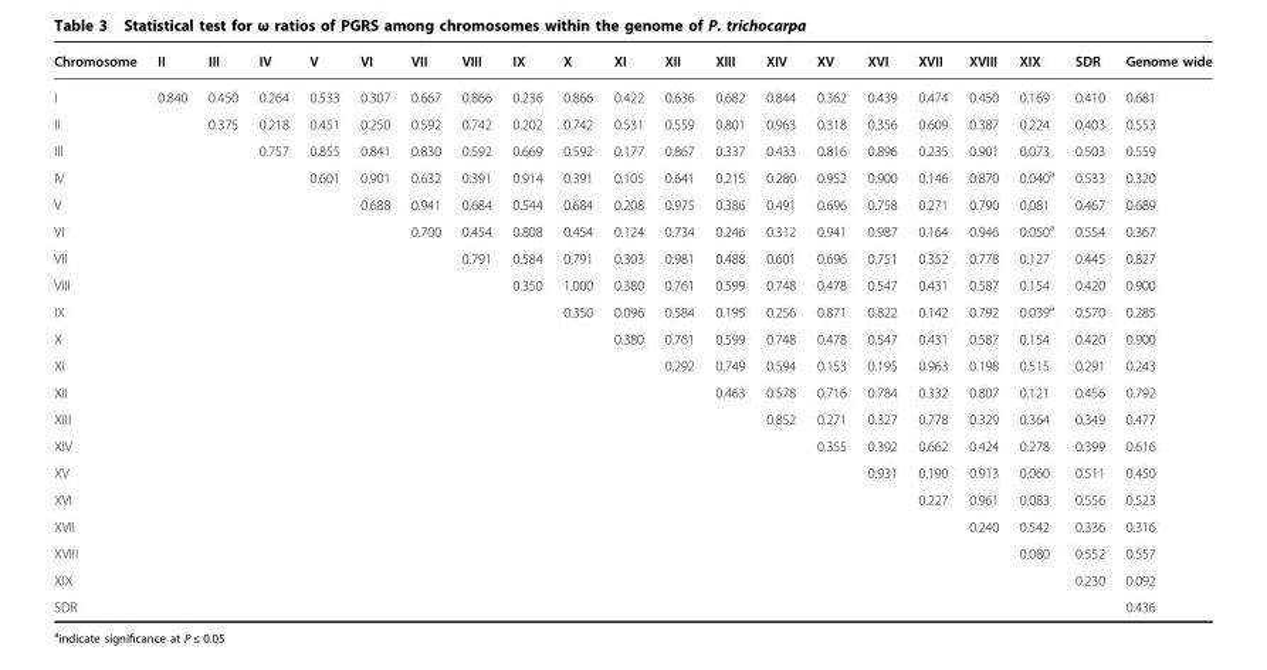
<table><thead><tr><td>Chromosome</td><td>II</td><td>III</td><td>IV</td><td>V</td><td>VI</td><td>VII</td><td>VIII</td><td>IX</td><td>X</td><td>XI</td><td>XII</td><td>XIII</td><td>XIV</td><td>XV</td><td>XVI</td><td>XVII</td><td>XVIII</td><td>XIX</td><td>SDR</td><td>Genome wide</td></tr></thead><tbody><tr><td>I</td><td>0.840</td><td>0.450</td><td>0.264</td><td>0.533</td><td>0.307</td><td>0.667</td><td>0.866</td><td>0.236</td><td>0.866</td><td>0.422</td><td>0.636</td><td>0.682</td><td>0.844</td><td>0.362</td><td>0.439</td><td>0.474</td><td>0.450</td><td>0.169</td><td>0.410</td><td>0.681</td></tr><tr><td>II</td><td></td><td>0.375</td><td>0.218</td><td>0.451</td><td>0.250</td><td>0.592</td><td>0.742</td><td>0.202</td><td>0.742</td><td>0.531</td><td>0.559</td><td>0.801</td><td>0.963</td><td>0.318</td><td>0.356</td><td>0.609</td><td>0.387</td><td>0.224</td><td>0.403</td><td>0.553</td></tr><tr><td>III</td><td></td><td></td><td>0.757</td><td>0.855</td><td>0.841</td><td>0.830</td><td>0.592</td><td>0.669</td><td>0.592</td><td>0.177</td><td>0.867</td><td>0.337</td><td>0.433</td><td>0.816</td><td>0.896</td><td>0.235</td><td>0.901</td><td>0.073</td><td>0.503</td><td>0.559</td></tr><tr><td>IV</td><td></td><td></td><td></td><td>0.601</td><td>0.901</td><td>0.632</td><td>0.391</td><td>0.914</td><td>0.391</td><td>0.105</td><td>0.641</td><td>0.215</td><td>0.280</td><td>0.952</td><td>0.900</td><td>0.146</td><td>0.870</td><td>0.040<sup>a</sup></td><td>0.533</td><td>0.320</td></tr><tr><td>V</td><td></td><td></td><td></td><td></td><td>0.688</td><td>0.941</td><td>0.684</td><td>0.544</td><td>0.684</td><td>0.208</td><td>0.975</td><td>0.386</td><td>0.491</td><td>0.696</td><td>0.758</td><td>0.271</td><td>0.790</td><td>0.081</td><td>0.467</td><td>0.689</td></tr><tr><td>VI</td><td></td><td></td><td></td><td></td><td></td><td>0.700</td><td>0.454</td><td>0.808</td><td>0.454</td><td>0.124</td><td>0.734</td><td>0.246</td><td>0.312</td><td>0.941</td><td>0.987</td><td>0.164</td><td>0.946</td><td>0.050<sup>a</sup></td><td>0.554</td><td>0.367</td></tr><tr><td>VII</td><td></td><td></td><td></td><td></td><td></td><td></td><td>0.791</td><td>0.584</td><td>0.791</td><td>0.303</td><td>0.981</td><td>0.488</td><td>0.601</td><td>0.696</td><td>0.751</td><td>0.352</td><td>0.778</td><td>0.127</td><td>0.445</td><td>0.827</td></tr><tr><td>VIII</td><td></td><td></td><td></td><td></td><td></td><td></td><td></td><td>0.350</td><td>1.000</td><td>0.380</td><td>0.761</td><td>0.599</td><td>0.748</td><td>0.478</td><td>0.547</td><td>0.431</td><td>0.587</td><td>0.154</td><td>0.420</td><td>0.900</td></tr><tr><td>IX</td><td></td><td></td><td></td><td></td><td></td><td></td><td></td><td></td><td>0.350</td><td>0.096</td><td>0.584</td><td>0.195</td><td>0.256</td><td>0.871</td><td>0.822</td><td>0.142</td><td>0.792</td><td>0.039<sup>a</sup></td><td>0.570</td><td>0.285</td></tr><tr><td>X</td><td></td><td></td><td></td><td></td><td></td><td></td><td></td><td></td><td></td><td>0.380</td><td>0.761</td><td>0.599</td><td>0.748</td><td>0.478</td><td>0.547</td><td>0.431</td><td>0.587</td><td>0.154</td><td>0.420</td><td>0.900</td></tr><tr><td>XI</td><td></td><td></td><td></td><td></td><td></td><td></td><td></td><td></td><td></td><td></td><td>0.292</td><td>0.749</td><td>0.594</td><td>0.153</td><td>0.195</td><td>0.963</td><td>0.198</td><td>0.515</td><td>0.291</td><td>0.243</td></tr><tr><td>XII</td><td></td><td></td><td></td><td></td><td></td><td></td><td></td><td></td><td></td><td></td><td></td><td>0.463</td><td>0.578</td><td>0.716</td><td>0.784</td><td>0.332</td><td>0.807</td><td>0.121</td><td>0.456</td><td>0.792</td></tr><tr><td>XIII</td><td></td><td></td><td></td><td></td><td></td><td></td><td></td><td></td><td></td><td></td><td></td><td></td><td>0.852</td><td>0.271</td><td>0.327</td><td>0.778</td><td>0.329</td><td>0.364</td><td>0.349</td><td>0.477</td></tr><tr><td>XIV</td><td></td><td></td><td></td><td></td><td></td><td></td><td></td><td></td><td></td><td></td><td></td><td></td><td></td><td>0.355</td><td>0.392</td><td>0.662</td><td>0.424</td><td>0.278</td><td>0.399</td><td>0.616</td></tr><tr><td>XV</td><td></td><td></td><td></td><td></td><td></td><td></td><td></td><td></td><td></td><td></td><td></td><td></td><td></td><td></td><td>0.931</td><td>0.190</td><td>0.913</td><td>0.060</td><td>0.511</td><td>0.450</td></tr><tr><td>XVI</td><td></td><td></td><td></td><td></td><td></td><td></td><td></td><td></td><td></td><td></td><td></td><td></td><td></td><td></td><td></td><td>0.227</td><td>0.961</td><td>0.083</td><td>0.556</td><td>0.523</td></tr><tr><td>XVII</td><td></td><td></td><td></td><td></td><td></td><td></td><td></td><td></td><td></td><td></td><td></td><td></td><td></td><td></td><td></td><td></td><td>0.240</td><td>0.542</td><td>0.336</td><td>0.316</td></tr><tr><td>XVIII</td><td></td><td></td><td></td><td></td><td></td><td></td><td></td><td></td><td></td><td></td><td></td><td></td><td></td><td></td><td></td><td></td><td></td><td>0.080</td><td>0.552</td><td>0.557</td></tr><tr><td>XIX</td><td></td><td></td><td></td><td></td><td></td><td></td><td></td><td></td><td></td><td></td><td></td><td></td><td></td><td></td><td></td><td></td><td></td><td></td><td>0.230</td><td>0.092</td></tr><tr><td>SDR</td><td></td><td></td><td></td><td></td><td></td><td></td><td></td><td></td><td></td><td></td><td></td><td></td><td></td><td></td><td></td><td></td><td></td><td></td><td></td><td>0.436</td></tr></tbody></table>